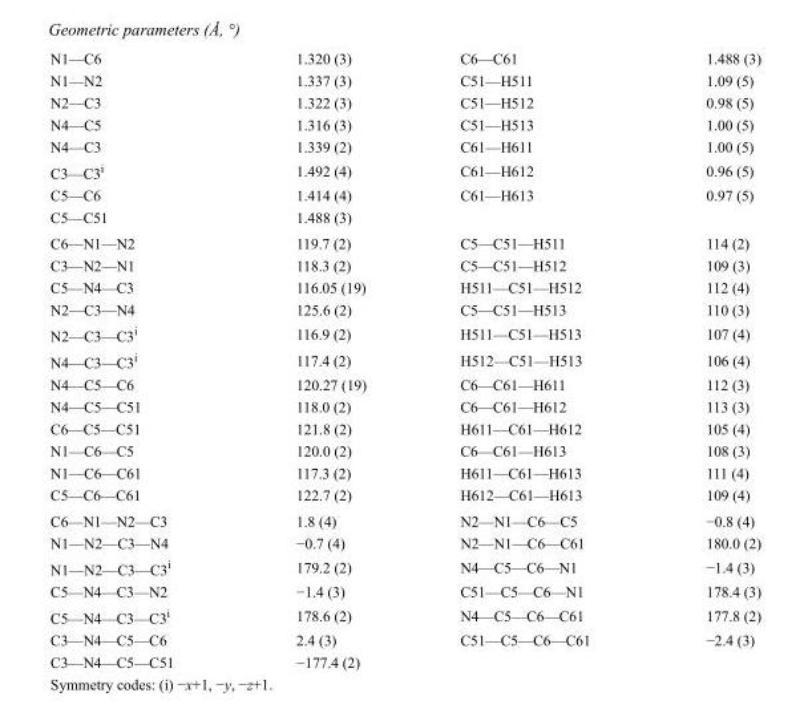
<table><tbody><tr><td>N1—C6</td><td>1.320 (3)</td><td>C6—C61</td><td>1.488 (3)</td></tr><tr><td>N1—N2</td><td>1.337 (3)</td><td>C51—H511</td><td>1.09 (5)</td></tr><tr><td>N2—C3</td><td>1.322 (3)</td><td>C51—H512</td><td>0.98 (5)</td></tr><tr><td>N4—C5</td><td>1.316 (3)</td><td>C51—H513</td><td>1.00 (5)</td></tr><tr><td>N4—C3</td><td>1.339 (2)</td><td>C61—H611</td><td>1.00 (5)</td></tr><tr><td>C3—C3<sup>i</sup></td><td>1.492 (4)</td><td>C61—H612</td><td>0.96 (5)</td></tr><tr><td>C5—C6</td><td>1.414 (4)</td><td>C61—H613</td><td>0.97 (5)</td></tr><tr><td>C5—C51</td><td>1.488 (3)</td><td></td><td></td></tr><tr><td>C6—N1—N2</td><td>119.7 (2)</td><td>C5—C51—H511</td><td>114 (2)</td></tr><tr><td>C3—N2—N1</td><td>118.3 (2)</td><td>C5—C51—H512</td><td>109 (3)</td></tr><tr><td>C5—N4—C3</td><td>116.05 (19)</td><td>H511—C51—H512</td><td>112 (4)</td></tr><tr><td>N2—C3—N4</td><td>125.6 (2)</td><td>C5—C51—H513</td><td>110 (3)</td></tr><tr><td>N2—C3—C3<sup>i</sup></td><td>116.9 (2)</td><td>H511—C51—H513</td><td>107 (4)</td></tr><tr><td>N4—C3—C3<sup>i</sup></td><td>117.4 (2)</td><td>H512—C51—H513</td><td>106 (4)</td></tr><tr><td>N4—C5—C6</td><td>120.27 (19)</td><td>C6—C61—H611</td><td>112 (3)</td></tr><tr><td>N4—C5—C51</td><td>118.0 (2)</td><td>C6—C61—H612</td><td>113 (3)</td></tr><tr><td>C6—C5—C51</td><td>121.8 (2)</td><td>H611—C61—H612</td><td>105 (4)</td></tr><tr><td>N1—C6—C5</td><td>120.0 (2)</td><td>C6—C61—H613</td><td>108 (3)</td></tr><tr><td>N1—C6—C61</td><td>117.3 (2)</td><td>H611—C61—H613</td><td>111 (4)</td></tr><tr><td>C5—C6—C61</td><td>122.7 (2)</td><td>H612—C61—H613</td><td>109 (4)</td></tr><tr><td>C6—N1—N2—C3</td><td>1.8 (4)</td><td>N2—N1—C6—C5</td><td>−0.8 (4)</td></tr><tr><td>N1—N2—C3—N4</td><td>−0.7 (4)</td><td>N2—N1—C6—C61</td><td>180.0 (2)</td></tr><tr><td>N1—N2—C3—C3<sup>i</sup></td><td>179.2 (2)</td><td>N4—C5—C6—N1</td><td>−1.4 (3)</td></tr><tr><td>C5—N4—C3—N2</td><td>−1.4 (3)</td><td>C51—C5—C6—N1</td><td>178.4 (3)</td></tr><tr><td>C5—N4—C3—C3<sup>i</sup></td><td>178.6 (2)</td><td>N4—C5—C6—C61</td><td>177.8 (2)</td></tr><tr><td>C3—N4—C5—C6</td><td>2.4 (3)</td><td>C51—C5—C6—C61</td><td>−2.4 (3)</td></tr><tr><td>C3—N4—C5—C51</td><td>−177.4 (2)</td><td></td><td></td></tr></tbody></table>